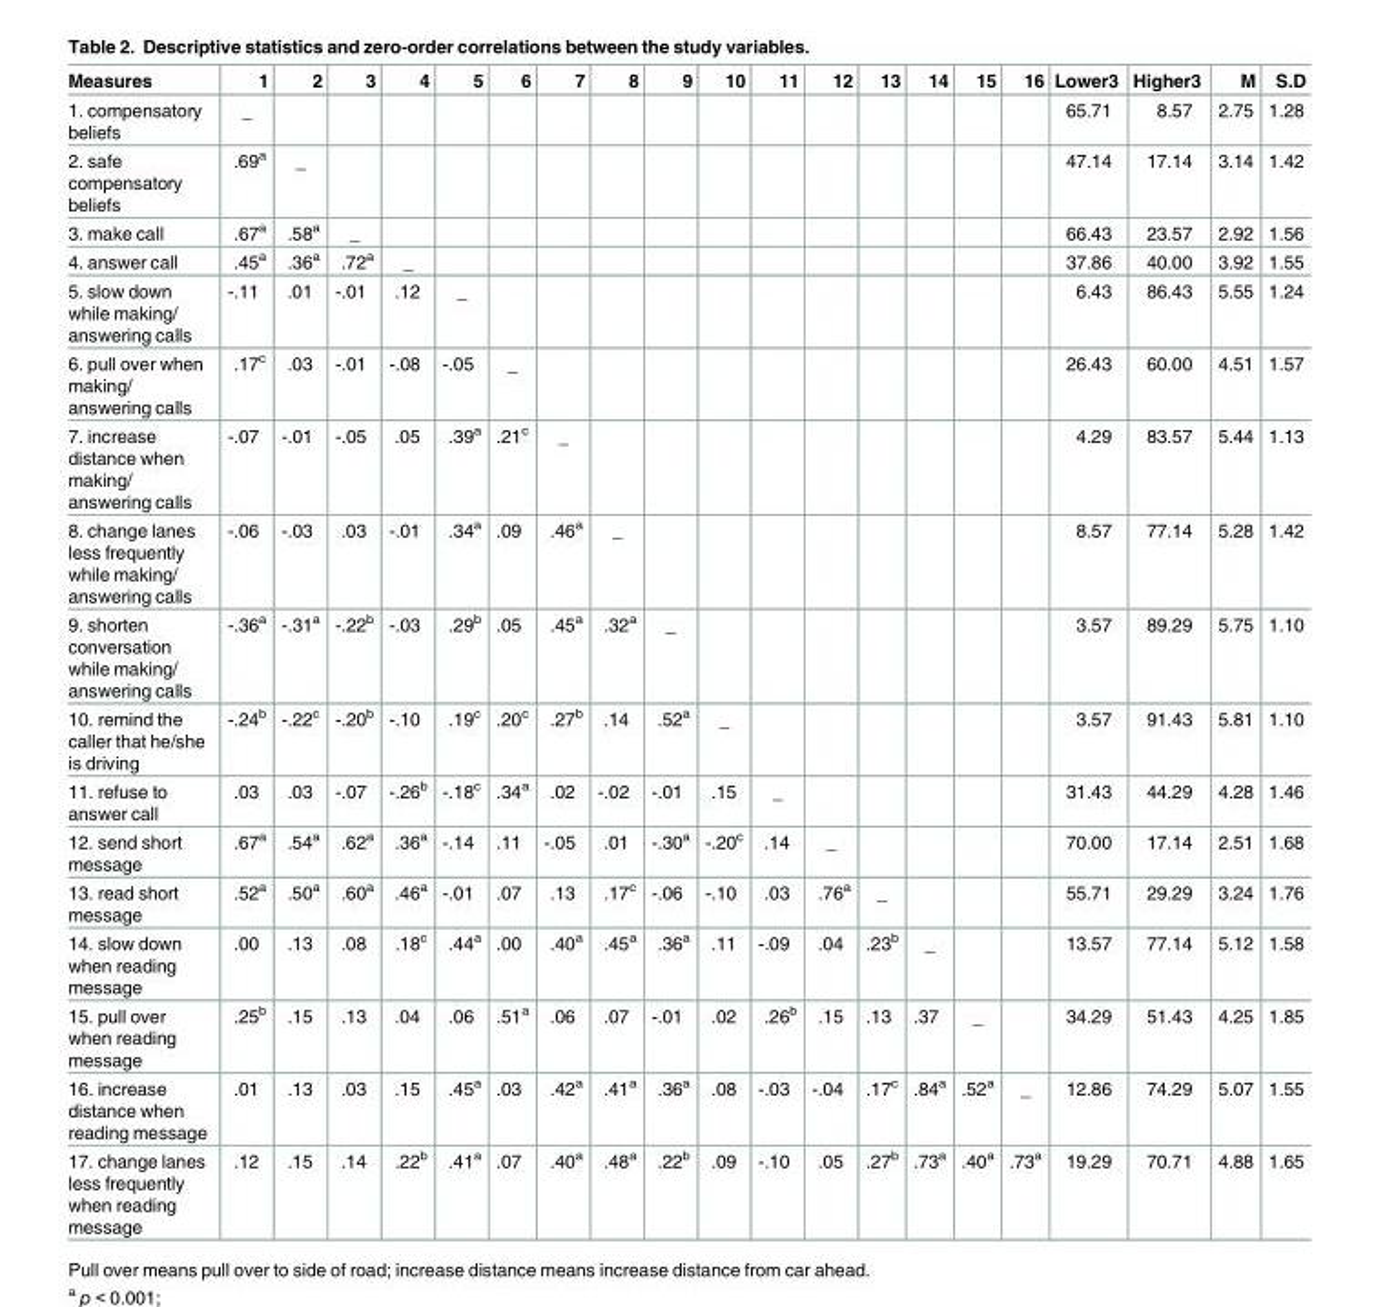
<table><thead><tr><td>Measures</td><td>1</td><td>2</td><td>3</td><td>4</td><td>5</td><td>6</td><td>7</td><td>8</td><td>9</td><td>10</td><td>11</td><td>12</td><td>13</td><td>14</td><td>15</td><td>16</td><td>Lower3</td><td>Higher3</td><td>M</td><td>S.D</td></tr></thead><tbody><tr><td>1. compensatory beliefs</td><td>_</td><td></td><td></td><td></td><td></td><td></td><td></td><td></td><td></td><td></td><td></td><td></td><td></td><td></td><td></td><td></td><td>65.71</td><td>8.57</td><td>2.75</td><td>1.28</td></tr><tr><td>2. safe compensatory beliefs</td><td>.69<sup>a</sup></td><td>_</td><td></td><td></td><td></td><td></td><td></td><td></td><td></td><td></td><td></td><td></td><td></td><td></td><td></td><td></td><td>47.14</td><td>17.14</td><td>3.14</td><td>1.42</td></tr><tr><td>3. make call</td><td>.67<sup>a</sup></td><td>.58<sup>a</sup></td><td>_</td><td></td><td></td><td></td><td></td><td></td><td></td><td></td><td></td><td></td><td></td><td></td><td></td><td></td><td>66.43</td><td>23.57</td><td>2.92</td><td>1.56</td></tr><tr><td>4. answer call</td><td>.45<sup>a</sup></td><td>.36<sup>a</sup></td><td>.72<sup>a</sup></td><td>_</td><td></td><td></td><td></td><td></td><td></td><td></td><td></td><td></td><td></td><td></td><td></td><td></td><td>37.86</td><td>40.00</td><td>3.92</td><td>1.55</td></tr><tr><td>5. slow down while making/ answering calls</td><td>-.11</td><td>.01</td><td>-.01</td><td>.12</td><td>_</td><td></td><td></td><td></td><td></td><td></td><td></td><td></td><td></td><td></td><td></td><td></td><td>6.43</td><td>86.43</td><td>5.55</td><td>1.24</td></tr><tr><td>6. pull over when making/ answering calls</td><td>.17<sup>c</sup></td><td>.03</td><td>-.01</td><td>-.08</td><td>-.05</td><td>_</td><td></td><td></td><td></td><td></td><td></td><td></td><td></td><td></td><td></td><td></td><td>26.43</td><td>60.00</td><td>4.51</td><td>1.57</td></tr><tr><td>7. increase distance when making/ answering calls</td><td>-.07</td><td>-.01</td><td>-.05</td><td>.05</td><td>.39<sup>a</sup></td><td>.21<sup>c</sup></td><td>_</td><td></td><td></td><td></td><td></td><td></td><td></td><td></td><td></td><td></td><td>4.29</td><td>83.57</td><td>5.44</td><td>1.13</td></tr><tr><td>8. change lanes less frequently while making/ answering calls</td><td>-.06</td><td>-.03</td><td>.03</td><td>-.01</td><td>.34<sup>a</sup></td><td>.09</td><td>.46<sup>a</sup></td><td>_</td><td></td><td></td><td></td><td></td><td></td><td></td><td></td><td></td><td>8.57</td><td>77.14</td><td>5.28</td><td>1.42</td></tr><tr><td>9. shorten conversation while making/ answering calls</td><td>-.36<sup>a</sup></td><td>-.31<sup>a</sup></td><td>-.22<sup>b</sup></td><td>-.03</td><td>.29<sup>b</sup></td><td>.05</td><td>.45<sup>a</sup></td><td>.32<sup>a</sup></td><td>_</td><td></td><td></td><td></td><td></td><td></td><td></td><td></td><td>3.57</td><td>89.29</td><td>5.75</td><td>1.10</td></tr><tr><td>10. remind the caller that he/she is driving</td><td>-.24<sup>b</sup></td><td>-.22<sup>c</sup></td><td>-.20<sup>b</sup></td><td>-.10</td><td>.19<sup>c</sup></td><td>.20<sup>c</sup></td><td>.27<sup>b</sup></td><td>.14</td><td>.52<sup>a</sup></td><td>_</td><td></td><td></td><td></td><td></td><td></td><td></td><td>3.57</td><td>91.43</td><td>5.81</td><td>1.10</td></tr><tr><td>11. refuse to answer call</td><td>.03</td><td>.03</td><td>-.07</td><td>-.26<sup>b</sup></td><td>-.18<sup>c</sup></td><td>.34<sup>a</sup></td><td>.02</td><td>-.02</td><td>-.01</td><td>.15</td><td>_</td><td></td><td></td><td></td><td></td><td></td><td>31.43</td><td>44.29</td><td>4.28</td><td>1.46</td></tr><tr><td>12. send short message</td><td>.67<sup>a</sup></td><td>.54<sup>a</sup></td><td>.62<sup>a</sup></td><td>.36<sup>a</sup></td><td>-.14</td><td>.11</td><td>-.05</td><td>.01</td><td>-.30<sup>a</sup></td><td>-.20<sup>c</sup></td><td>.14</td><td>_</td><td></td><td></td><td></td><td></td><td>70.00</td><td>17.14</td><td>2.51</td><td>1.68</td></tr><tr><td>13. read short message</td><td>.52<sup>a</sup></td><td>.50<sup>a</sup></td><td>.60<sup>a</sup></td><td>.46<sup>a</sup></td><td>-.01</td><td>.07</td><td>.13</td><td>.17<sup>c</sup></td><td>-.06</td><td>-.10</td><td>.03</td><td>.76<sup>a</sup></td><td>_</td><td></td><td></td><td></td><td>55.71</td><td>29.29</td><td>3.24</td><td>1.76</td></tr><tr><td>14. slow down when reading message</td><td>.00</td><td>.13</td><td>.08</td><td>.18<sup>c</sup></td><td>.44<sup>a</sup></td><td>.00</td><td>.40<sup>a</sup></td><td>.45<sup>a</sup></td><td>.36<sup>a</sup></td><td>.11</td><td>-.09</td><td>.04</td><td>.23<sup>b</sup></td><td>_</td><td></td><td></td><td>13.57</td><td>77.14</td><td>5.12</td><td>1.58</td></tr><tr><td>15. pull over when reading message</td><td>.25<sup>b</sup></td><td>.15</td><td>.13</td><td>.04</td><td>.06</td><td>.51<sup>a</sup></td><td>.06</td><td>.07</td><td>-.01</td><td>.02</td><td>.26<sup>b</sup></td><td>.15</td><td>.13</td><td>.37</td><td>_</td><td></td><td>34.29</td><td>51.43</td><td>4.25</td><td>1.85</td></tr><tr><td>16. increase distance when reading message</td><td>.01</td><td>.13</td><td>.03</td><td>.15</td><td>.45<sup>a</sup></td><td>.03</td><td>.42<sup>a</sup></td><td>.41<sup>a</sup></td><td>.36<sup>a</sup></td><td>.08</td><td>-.03</td><td>-.04</td><td>.17<sup>c</sup></td><td>.84<sup>a</sup></td><td>.52<sup>a</sup></td><td>_</td><td>12.86</td><td>74.29</td><td>5.07</td><td>1.55</td></tr><tr><td>17. change lanes less frequently when reading message</td><td>.12</td><td>.15</td><td>.14</td><td>.22<sup>b</sup></td><td>.41<sup>a</sup></td><td>.07</td><td>.40<sup>a</sup></td><td>.48<sup>a</sup></td><td>.22<sup>b</sup></td><td>.09</td><td>-.10</td><td>.05</td><td>.27<sup>b</sup></td><td>.73<sup>a</sup></td><td>.40<sup>a</sup></td><td>.73<sup>a</sup></td><td>19.29</td><td>70.71</td><td>4.88</td><td>1.65</td></tr></tbody></table>